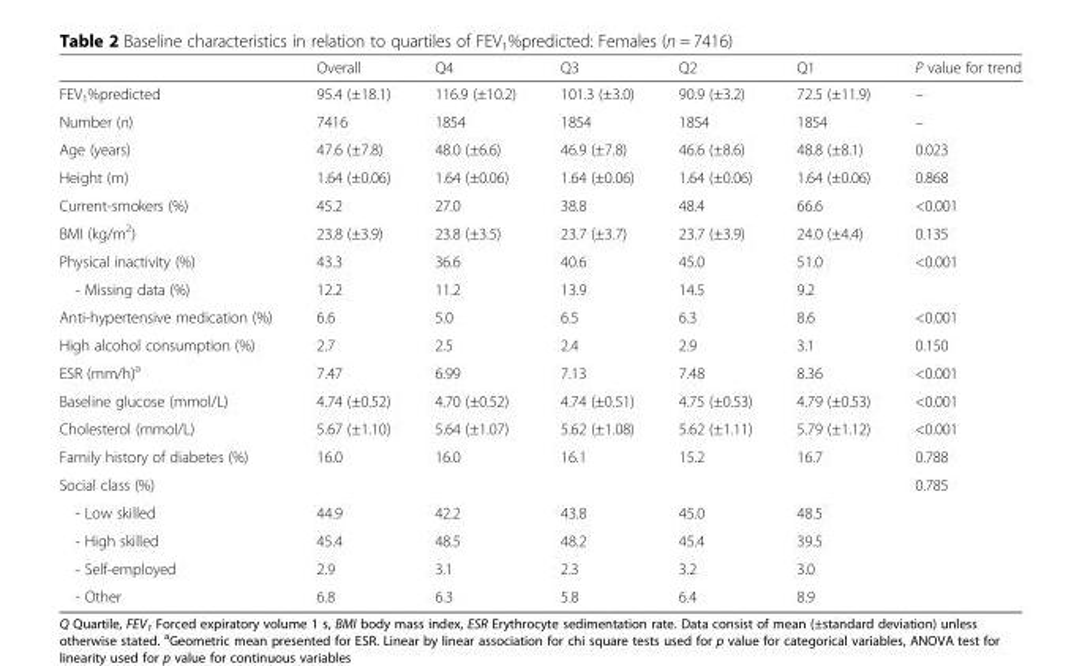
<table><thead><tr><td></td><td>Overall</td><td>Q4</td><td>Q3</td><td>Q2</td><td>Q1</td><td>P value for trend</td></tr></thead><tbody><tr><td>FEV<sub>1</sub>%predicted</td><td>95.4 (±18.1)</td><td>116.9 (±10.2)</td><td>101.3 (±3.0)</td><td>90.9 (±3.2)</td><td>72.5 (±11.9)</td><td>–</td></tr><tr><td>Number (n)</td><td>7416</td><td>1854</td><td>1854</td><td>1854</td><td>1854</td><td>–</td></tr><tr><td>Age (years)</td><td>47.6 (±7.8)</td><td>48.0 (±6.6)</td><td>46.9 (±7.8)</td><td>46.6 (±8.6)</td><td>48.8 (±8.1)</td><td>0.023</td></tr><tr><td>Height (m)</td><td>1.64 (±0.06)</td><td>1.64 (±0.06)</td><td>1.64 (±0.06)</td><td>1.64 (±0.06)</td><td>1.64 (±0.06)</td><td>0.868</td></tr><tr><td>Current-smokers (%)</td><td>45.2</td><td>27.0</td><td>38.8</td><td>48.4</td><td>66.6</td><td>&lt;0.001</td></tr><tr><td>BMI (kg/m<sup>2</sup>)</td><td>23.8 (±3.9)</td><td>23.8 (±3.5)</td><td>23.7 (±3.7)</td><td>23.7 (±3.9)</td><td>24.0 (±4.4)</td><td>0.135</td></tr><tr><td>Physical inactivity (%)</td><td>43.3</td><td>36.6</td><td>40.6</td><td>45.0</td><td>51.0</td><td rowspan="2">&lt;0.001</td></tr><tr><td>- Missing data (%)</td><td>12.2</td><td>11.2</td><td>13.9</td><td>14.5</td><td>9.2</td></tr><tr><td>Anti-hypertensive medication (%)</td><td>6.6</td><td>5.0</td><td>6.5</td><td>6.3</td><td>8.6</td><td>&lt;0.001</td></tr><tr><td>High alcohol consumption (%)</td><td>2.7</td><td>2.5</td><td>2.4</td><td>2.9</td><td>3.1</td><td>0.150</td></tr><tr><td>ESR (mm/h)<sup>a</sup></td><td>7.47</td><td>6.99</td><td>7.13</td><td>7.48</td><td>8.36</td><td>&lt;0.001</td></tr><tr><td>Baseline glucose (mmol/L)</td><td>4.74 (±0.52)</td><td>4.70 (±0.52)</td><td>4.74 (±0.51)</td><td>4.75 (±0.53)</td><td>4.79 (±0.53)</td><td>&lt;0.001</td></tr><tr><td>Cholesterol (mmol/L)</td><td>5.67 (±1.10)</td><td>5.64 (±1.07)</td><td>5.62 (±1.08)</td><td>5.62 (±1.11)</td><td>5.79 (±1.12)</td><td>&lt;0.001</td></tr><tr><td>Family history of diabetes (%)</td><td>16.0</td><td>16.0</td><td>16.1</td><td>15.2</td><td>16.7</td><td>0.788</td></tr><tr><td colspan="6">Social class (%)</td><td rowspan="5">0.785</td></tr><tr><td>- Low skilled</td><td>44.9</td><td>42.2</td><td>43.8</td><td>45.0</td><td>48.5</td></tr><tr><td>- High skilled</td><td>45.4</td><td>48.5</td><td>48.2</td><td>45.4</td><td>39.5</td></tr><tr><td>- Self-employed</td><td>2.9</td><td>3.1</td><td>2.3</td><td>3.2</td><td>3.0</td></tr><tr><td>- Other</td><td>6.8</td><td>6.3</td><td>5.8</td><td>6.4</td><td>8.9</td></tr></tbody></table>